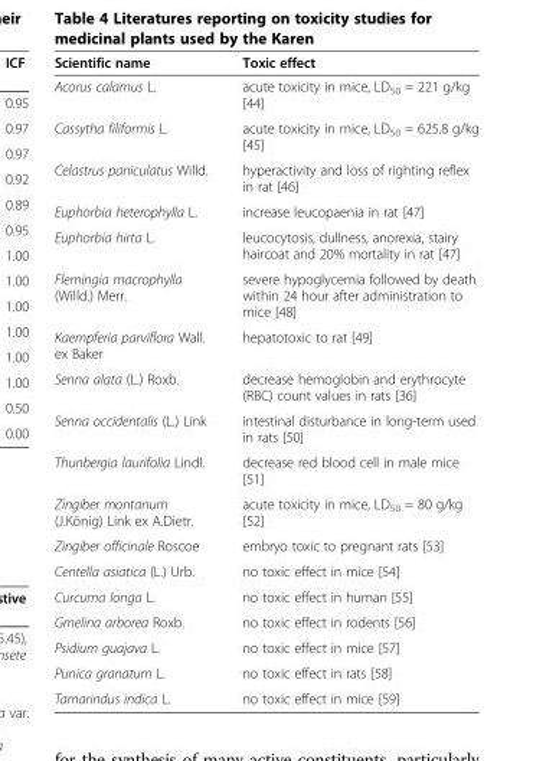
<table><thead><tr><td>Scientific name</td><td>Toxic effect</td></tr></thead><tbody><tr><td>Acorus calamus L.</td><td>acute toxicity in mice, LD<sub>50</sub> = 221 g/kg [44]</td></tr><tr><td>Cassytha filiformis L.</td><td>acute toxicity in mice, LD<sub>50</sub> = 625.8 g/kg [45]</td></tr><tr><td>Celastrus paniculatus Willd.</td><td>hyperactivity and loss of righting reflex in rat [46]</td></tr><tr><td>Euphorbia heterophylla L.</td><td>increase leucopaenia in rat [47]</td></tr><tr><td>Euphorbia hirta L.</td><td>leucocytosis, dullness, anorexia, stairy haircoat and 20% mortality in rat [47]</td></tr><tr><td>Flemingia macrophylla (Willd.) Merr.</td><td>severe hypoglycemia followed by death within 24 hour after administration to mice [48]</td></tr><tr><td>Kaempferia parviflora Wall. ex Baker</td><td>hepatotoxic to rat [49]</td></tr><tr><td>Senna alata (L.) Roxb.</td><td>decrease hemoglobin and erythrocyte (RBC) count values in rats [36]</td></tr><tr><td>Senna occidentalis (L.) Link</td><td>intestinal disturbance in long-term used in rats [50]</td></tr><tr><td>Thunbergia laurifolia Lindl.</td><td>decrease red blood cell in male mice [51]</td></tr><tr><td>Zingiber montanum (J.König) Link ex A.Dietr.</td><td>acute toxicity in mice, LD<sub>50</sub> = 80 g/kg [52]</td></tr><tr><td>Zingiber officinale Roscoe</td><td>embryo toxic to pregnant rats [53]</td></tr><tr><td>Centella asiatica (L.) Urb.</td><td>no toxic effect in mice [54]</td></tr><tr><td>Curcuma longa L.</td><td>no toxic effect in human [55]</td></tr><tr><td>Gmelina arborea Roxb.</td><td>no toxic effect in rodents [56]</td></tr><tr><td>Psidium guajava L.</td><td>no toxic effect in mice [57]</td></tr><tr><td>Punica granatum L.</td><td>no toxic effect in rats [58]</td></tr><tr><td>Tamarindus indica L.</td><td>no toxic effect in mice [59]</td></tr></tbody></table>